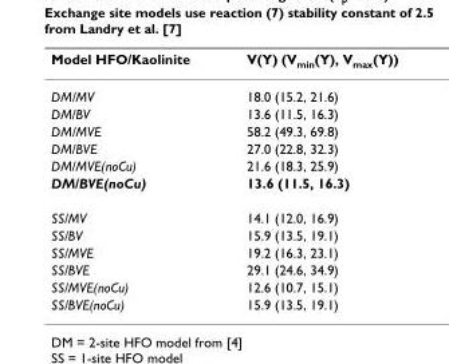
<table><thead><tr><td>Model HFO/Kaolinite</td><td>V(Y) (V<sub>min</sub>(Y), V<sub>max</sub>(Y))</td></tr></thead><tbody><tr><td>DM/MV</td><td>18.0 (15.2, 21.6)</td></tr><tr><td>DM/BV</td><td>13.6 (11.5, 16.3)</td></tr><tr><td>DM/MVE</td><td>58.2 (49.3, 69.8)</td></tr><tr><td>DM/BVE</td><td>27.0 (22.8, 32.3)</td></tr><tr><td>DM/MVE(noCu)</td><td>21.6 (18.3, 25.9)</td></tr><tr><td>DM/BVE(noCu)</td><td>13.6 (11.5, 16.3)</td></tr><tr><td>SS/MV</td><td>14.1 (12.0, 16.9)</td></tr><tr><td>SS/BV</td><td>15.9 (13.5, 19.1)</td></tr><tr><td>SS/MVE</td><td>19.2 (16.3, 23.1)</td></tr><tr><td>SS/BVE</td><td>29.1 (24.6, 34.9)</td></tr><tr><td>SS/MVE(noCu)</td><td>12.6 (10.7, 15.1)</td></tr><tr><td>SS/BVE(noCu)</td><td>15.9 (13.5, 19.1)</td></tr></tbody></table>